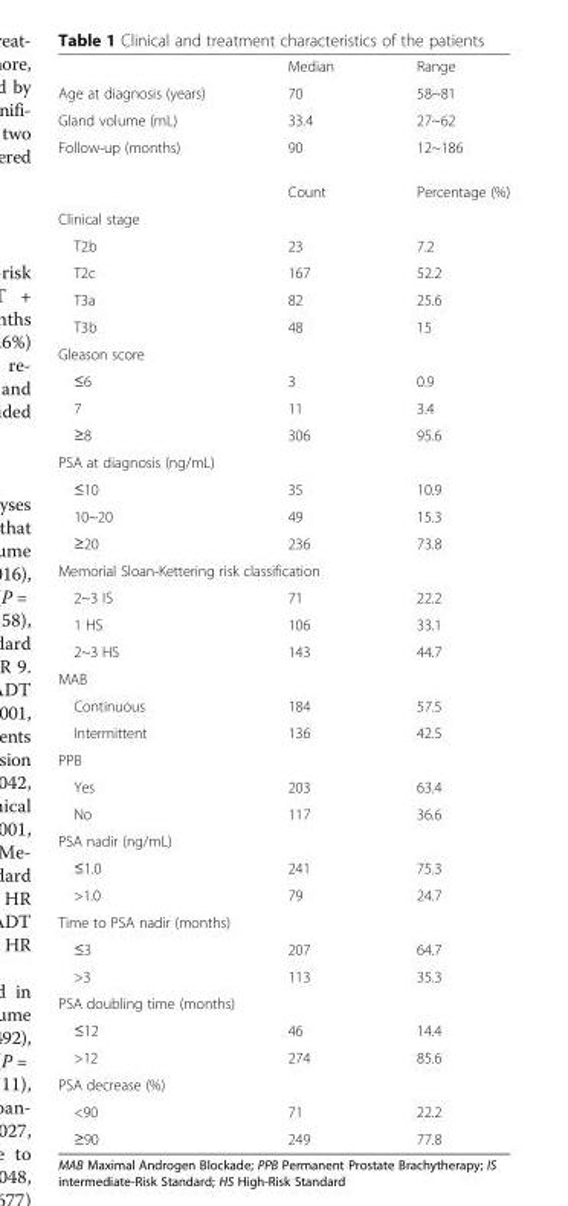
<table><thead><tr><td></td><td>Median</td><td>Range</td></tr></thead><tbody><tr><td>Age at diagnosis (years)</td><td>70</td><td>58~81</td></tr><tr><td>Gland volume (mL)</td><td>33.4</td><td>27~62</td></tr><tr><td rowspan="2">Follow-up (months)</td><td>90</td><td>12~186</td></tr><tr><td>Count</td><td>Percentage (%)</td></tr><tr><td colspan="3">Clinical stage</td></tr><tr><td>T2b</td><td>23</td><td>7.2</td></tr><tr><td>T2c</td><td>167</td><td>52.2</td></tr><tr><td>T3a</td><td>82</td><td>25.6</td></tr><tr><td>T3b</td><td>48</td><td>15</td></tr><tr><td colspan="3">Gleason score</td></tr><tr><td>≤6</td><td>3</td><td>0.9</td></tr><tr><td>7</td><td>11</td><td>3.4</td></tr><tr><td>≥8</td><td>306</td><td>95.6</td></tr><tr><td colspan="3">PSA at diagnosis (ng/mL)</td></tr><tr><td>≤10</td><td>35</td><td>10.9</td></tr><tr><td>10~20</td><td>49</td><td>15.3</td></tr><tr><td>≥20</td><td>236</td><td>73.8</td></tr><tr><td colspan="3">Memorial Sloan-Kettering risk classification</td></tr><tr><td>2~3 IS</td><td>71</td><td>22.2</td></tr><tr><td>1 HS</td><td>106</td><td>33.1</td></tr><tr><td>2~3 HS</td><td>143</td><td>44.7</td></tr><tr><td colspan="3">MAB</td></tr><tr><td>Continuous</td><td>184</td><td>57.5</td></tr><tr><td>Intermittent</td><td>136</td><td>42.5</td></tr><tr><td colspan="3">PPB</td></tr><tr><td>Yes</td><td>203</td><td>63.4</td></tr><tr><td>No</td><td>117</td><td>36.6</td></tr><tr><td colspan="3">PSA nadir (ng/mL)</td></tr><tr><td>≤1.0</td><td>241</td><td>75.3</td></tr><tr><td>&gt;1.0</td><td>79</td><td>24.7</td></tr><tr><td colspan="3">Time to PSA nadir (months)</td></tr><tr><td>≤3</td><td>207</td><td>64.7</td></tr><tr><td>&gt;3</td><td>113</td><td>35.3</td></tr><tr><td colspan="3">PSA doubling time (months)</td></tr><tr><td>≤12</td><td>46</td><td>14.4</td></tr><tr><td>&gt;12</td><td>274</td><td>85.6</td></tr><tr><td colspan="3">PSA decrease (%)</td></tr><tr><td>&lt;90</td><td>71</td><td>22.2</td></tr><tr><td>≥90</td><td>249</td><td>77.8</td></tr></tbody></table>